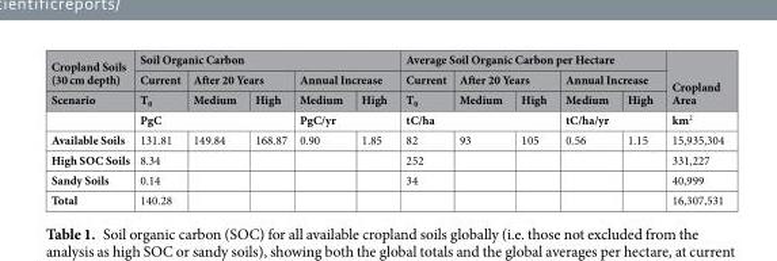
<table><thead><tr><td rowspan="3">Cropland Soils (30 cm depth) Scenario</td><td colspan="5">Soil Organic Carbon</td><td colspan="5">Average Soil Organic Carbon per Hectare</td><td rowspan="3">Cropland Area</td></tr><tr><td rowspan="2">Current T<sub>0</sub></td><td colspan="2">After 20 Years</td><td colspan="2">Annual Increase</td><td rowspan="2">Current T<sub>0</sub></td><td colspan="2">After 20 Years</td><td colspan="2">Annual Increase</td></tr><tr><td>Medium</td><td>High</td><td>Medium</td><td>High</td><td>Medium</td><td>High</td><td>Medium</td><td>High</td></tr></thead><tbody><tr><td></td><td colspan="3">PgC</td><td colspan="2">PgC/yr</td><td colspan="3">tC/ha</td><td colspan="2">tC/ha/yr</td><td>km<sup>2</sup></td></tr><tr><td>Available Soils</td><td>131.81</td><td>149.84</td><td>168.87</td><td>0.90</td><td>1.85</td><td>82</td><td>93</td><td>105</td><td>0.56</td><td>1.15</td><td>15,935,304</td></tr><tr><td>High SOC Soils</td><td>8.34</td><td></td><td></td><td></td><td></td><td>252</td><td></td><td></td><td></td><td></td><td>331,227</td></tr><tr><td>Sandy Soils</td><td>0.14</td><td></td><td></td><td></td><td></td><td>34</td><td></td><td></td><td></td><td></td><td>40,999</td></tr><tr><td>Total</td><td>140.28</td><td></td><td></td><td></td><td></td><td></td><td></td><td></td><td></td><td></td><td>16,307,531</td></tr></tbody></table>